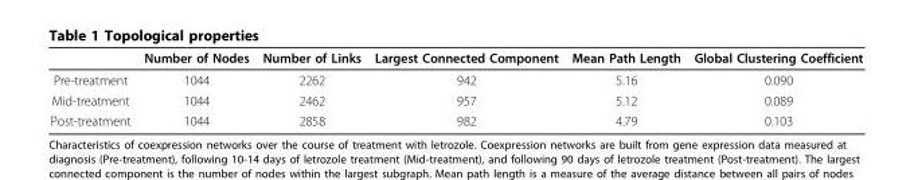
<table><thead><tr><td></td><td>Number of Nodes</td><td>Number of Links</td><td>Largest Connected Component</td><td>Mean Path Length</td><td>Global Clustering Coefficient</td></tr></thead><tbody><tr><td>Pre-treatment</td><td>1044</td><td>2262</td><td>942</td><td>5.16</td><td>0.090</td></tr><tr><td>Mid-treatment</td><td>1044</td><td>2462</td><td>957</td><td>5.12</td><td>0.089</td></tr><tr><td>Post-treatment</td><td>1044</td><td>2858</td><td>982</td><td>4.79</td><td>0.103</td></tr></tbody></table>